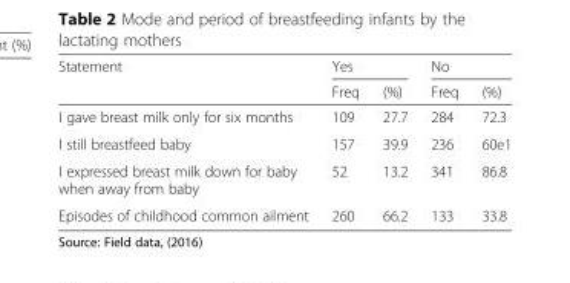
<table><thead><tr><td rowspan="2">Statement</td><td colspan="2">Yes</td><td colspan="2">No</td></tr><tr><td>Freq</td><td>(%)</td><td>Freq</td><td>(%)</td></tr></thead><tbody><tr><td>I gave breast milk only for six months</td><td>109</td><td>27.7</td><td>284</td><td>72.3</td></tr><tr><td>I still breastfeed baby</td><td>157</td><td>39.9</td><td>236</td><td>60e1</td></tr><tr><td>I expressed breast milk down for baby when away from baby</td><td>52</td><td>13.2</td><td>341</td><td>86.8</td></tr><tr><td>Episodes of childhood common ailment</td><td>260</td><td>66.2</td><td>133</td><td>33.8</td></tr></tbody></table>